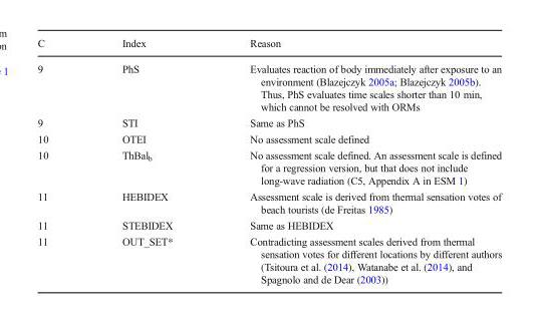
<table><thead><tr><td>C</td><td>Index</td><td>Reason</td></tr></thead><tbody><tr><td>9</td><td>PhS</td><td>Evaluates reaction of body immediately after exposure to an environment (Blazejczyk 2005a; Blazejczyk 2005b). Thus, PhS evaluates time scales shorter than 10 min, which cannot be resolved with ORMs</td></tr><tr><td>9</td><td>STI</td><td>Same as PhS</td></tr><tr><td>10</td><td>OTEI</td><td>No assessment scale defined</td></tr><tr><td>10</td><td>ThBal<sub>b</sub></td><td>No assessment scale defined. An assessment scale is defined for a regression version, but that does not include long-wave radiation (C5, Appendix A in ESM 1)</td></tr><tr><td>11</td><td>HEBIDEX</td><td>Assessment scale is derived from thermal sensation votes of beach tourists (de Freitas 1985)</td></tr><tr><td>11</td><td>STEBIDEX</td><td>Same as HEBIDEX</td></tr><tr><td>11</td><td>OUT_SET*</td><td>Contradicting assessment scales derived from thermal sensation votes for different locations by different authors (Tsitoura et al. (2014), Watanabe et al. (2014), and Spagnolo and de Dear (2003))</td></tr></tbody></table>